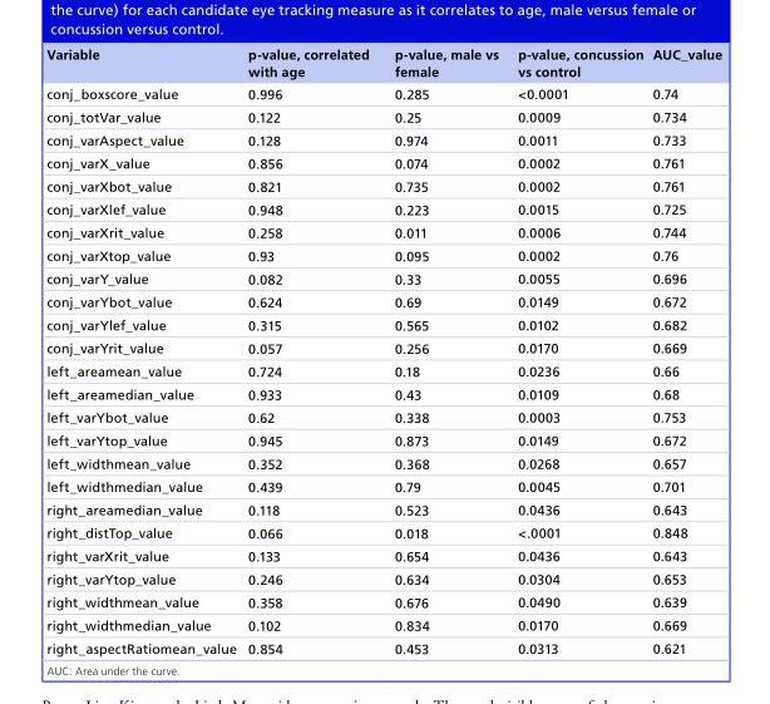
<table><thead><tr><td>Variable</td><td>p-value, correlated with age</td><td>p-value, male vs female</td><td>p-value, concussion vs control</td><td>AUC_value</td></tr></thead><tbody><tr><td>conj_boxscore_value</td><td>0.996</td><td>0.285</td><td>&lt;0.0001</td><td>0.74</td></tr><tr><td>conj_totVar_value</td><td>0.122</td><td>0.25</td><td>0.0009</td><td>0.734</td></tr><tr><td>conj_varAspect_value</td><td>0.128</td><td>0.974</td><td>0.0011</td><td>0.733</td></tr><tr><td>conj_varX_value</td><td>0.856</td><td>0.074</td><td>0.0002</td><td>0.761</td></tr><tr><td>conj_varXbot_value</td><td>0.821</td><td>0.735</td><td>0.0002</td><td>0.761</td></tr><tr><td>conj_varXlef_value</td><td>0.948</td><td>0.223</td><td>0.0015</td><td>0.725</td></tr><tr><td>conj_varXrit_value</td><td>0.258</td><td>0.011</td><td>0.0006</td><td>0.744</td></tr><tr><td>conj_varXtop_value</td><td>0.93</td><td>0.095</td><td>0.0002</td><td>0.76</td></tr><tr><td>conj_varY_value</td><td>0.082</td><td>0.33</td><td>0.0055</td><td>0.696</td></tr><tr><td>conj_varYbot_value</td><td>0.624</td><td>0.69</td><td>0.0149</td><td>0.672</td></tr><tr><td>conj_varYlef_value</td><td>0.315</td><td>0.565</td><td>0.0102</td><td>0.682</td></tr><tr><td>conj_varYrit_value</td><td>0.057</td><td>0.256</td><td>0.0170</td><td>0.669</td></tr><tr><td>left_areamean_value</td><td>0.724</td><td>0.18</td><td>0.0236</td><td>0.66</td></tr><tr><td>left_areamedian_value</td><td>0.933</td><td>0.43</td><td>0.0109</td><td>0.68</td></tr><tr><td>left_varYbot_value</td><td>0.62</td><td>0.338</td><td>0.0003</td><td>0.753</td></tr><tr><td>left_varYtop_value</td><td>0.945</td><td>0.873</td><td>0.0149</td><td>0.672</td></tr><tr><td>left_widthmean_value</td><td>0.352</td><td>0.368</td><td>0.0268</td><td>0.657</td></tr><tr><td>left_widthmedian_value</td><td>0.439</td><td>0.79</td><td>0.0045</td><td>0.701</td></tr><tr><td>right_areamedian_value</td><td>0.118</td><td>0.523</td><td>0.0436</td><td>0.643</td></tr><tr><td>right_distTop_value</td><td>0.066</td><td>0.018</td><td>&lt;.0001</td><td>0.848</td></tr><tr><td>right_varXrit_value</td><td>0.133</td><td>0.654</td><td>0.0436</td><td>0.643</td></tr><tr><td>right_varYtop_value</td><td>0.246</td><td>0.634</td><td>0.0304</td><td>0.653</td></tr><tr><td>right_widthmean_value</td><td>0.358</td><td>0.676</td><td>0.0490</td><td>0.639</td></tr><tr><td>right_widthmedian_value</td><td>0.102</td><td>0.834</td><td>0.0170</td><td>0.669</td></tr><tr><td>right_aspectRatiomean_value</td><td>0.854</td><td>0.453</td><td>0.0313</td><td>0.621</td></tr></tbody></table>